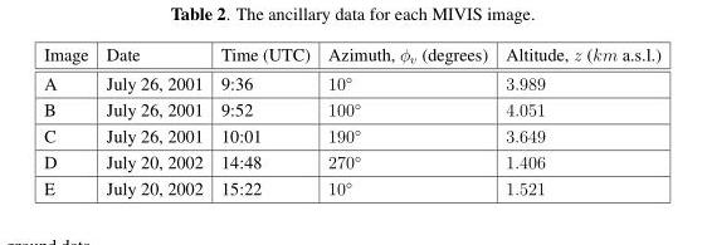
<table><thead><tr><td>Image</td><td>Date</td><td>Time (UTC)</td><td>Azimuth, ϕ<sub>υ</sub> (degrees)</td><td>Altitude, z (km a.s.l.)</td></tr></thead><tbody><tr><td>A</td><td>July 26, 2001</td><td>9:36</td><td>10◦</td><td>3.989</td></tr><tr><td>B</td><td>July 26, 2001</td><td>9:52</td><td>100◦</td><td>4.051</td></tr><tr><td>C</td><td>July 26, 2001</td><td>10:01</td><td>190◦</td><td>3.649</td></tr><tr><td>D</td><td>July 20, 2002</td><td>14:48</td><td>270◦</td><td>1.406</td></tr><tr><td>E</td><td>July 20, 2002</td><td>15:22</td><td>10◦</td><td>1.521</td></tr></tbody></table>